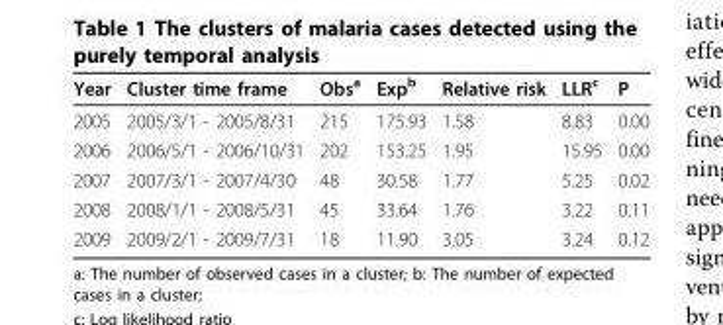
<table><thead><tr><td>Year</td><td>Cluster time frame</td><td>Obs<sup>a</sup></td><td>Exp<sup>b</sup></td><td>Relative risk</td><td>LLR<sup>c</sup></td><td>P</td></tr></thead><tbody><tr><td>2005</td><td>2005/3/1 - 2005/8/31</td><td>215</td><td>175.93</td><td>1.58</td><td>8.83</td><td>0.00</td></tr><tr><td>2006</td><td>2006/5/1 - 2006/10/31</td><td>202</td><td>153.25</td><td>1.95</td><td>15.95</td><td>0.00</td></tr><tr><td>2007</td><td>2007/3/1 - 2007/4/30</td><td>48</td><td>30.58</td><td>1.77</td><td>5.25</td><td>0.02</td></tr><tr><td>2008</td><td>2008/1/1 - 2008/5/31</td><td>45</td><td>33.64</td><td>1.76</td><td>3.22</td><td>0.11</td></tr><tr><td>2009</td><td>2009/2/1 - 2009/7/31</td><td>18</td><td>11.90</td><td>3.05</td><td>3.24</td><td>0.12</td></tr></tbody></table>